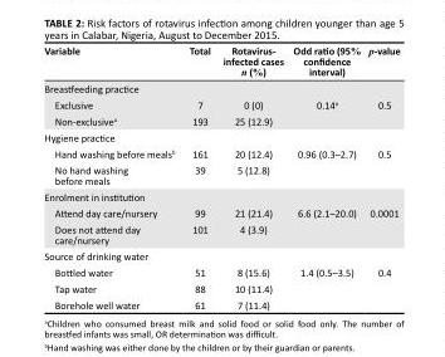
<table><thead><tr><td>Variable</td><td>Total</td><td>Rotavirus- infected cases n (%)</td><td>Odd ratio (95% confidence interval)</td><td>p-value</td></tr></thead><tbody><tr><td colspan="5">Breastfeeding practice</td></tr><tr><td>Exclusive</td><td>7</td><td>0 (0)</td><td>0.14<sup>a</sup></td><td>0.5</td></tr><tr><td>Non-exclusive<sup>a</sup></td><td>193</td><td>25 (12.9)</td><td></td><td></td></tr><tr><td colspan="5">Hygiene practice</td></tr><tr><td>Hand washing before meals<sup>b</sup></td><td>161</td><td>20 (12.4)</td><td>0.96 (0.3–2.7)</td><td>0.5</td></tr><tr><td>No hand washing before meals</td><td>39</td><td>5 (12.8)</td><td></td><td></td></tr><tr><td colspan="5">Enrolment in institution</td></tr><tr><td>Attend day care/nursery</td><td>99</td><td>21 (21.4)</td><td>6.6 (2.1–20.0)</td><td>0.0001</td></tr><tr><td>Does not attend day care/nursery</td><td>101</td><td>4 (3.9)</td><td></td><td></td></tr><tr><td colspan="5">Source of drinking water</td></tr><tr><td>Bottled water</td><td>51</td><td>8 (15.6)</td><td>1.4 (0.5–3.5)</td><td>0.4</td></tr><tr><td>Tap water</td><td>88</td><td>10 (11.4)</td><td></td><td></td></tr><tr><td>Borehole well water</td><td>61</td><td>7 (11.4)</td><td></td><td></td></tr></tbody></table>